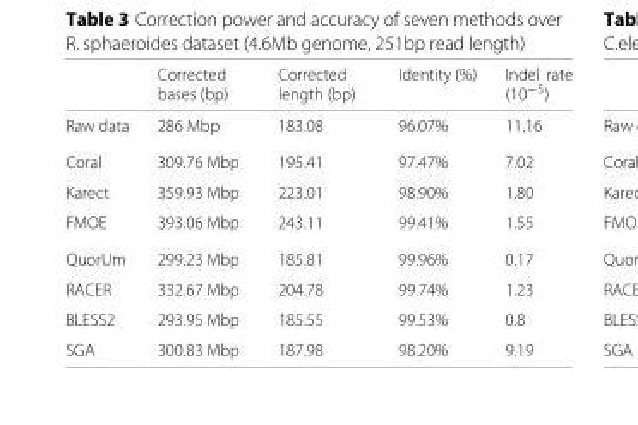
<table><thead><tr><td></td><td>Corrected bases (bp)</td><td>Corrected length (bp)</td><td>Identity (%)</td><td>Indel rate (10<sup>−5</sup>)</td></tr></thead><tbody><tr><td>Raw data</td><td>286 Mbp</td><td>183.08</td><td>96.07%</td><td>11.16</td></tr><tr><td>Coral</td><td>309.76 Mbp</td><td>195.41</td><td>97.47%</td><td>7.02</td></tr><tr><td>Karect</td><td>359.93 Mbp</td><td>223.01</td><td>98.90%</td><td>1.80</td></tr><tr><td>FMOE</td><td>393.06 Mbp</td><td>243.11</td><td>99.41%</td><td>1.55</td></tr><tr><td>QuorUm</td><td>299.23 Mbp</td><td>185.81</td><td>99.96%</td><td>0.17</td></tr><tr><td>RACER</td><td>332.67 Mbp</td><td>204.78</td><td>99.74%</td><td>1.23</td></tr><tr><td>BLESS2</td><td>293.95 Mbp</td><td>185.55</td><td>99.53%</td><td>0.8</td></tr><tr><td>SGA</td><td>300.83 Mbp</td><td>187.98</td><td>98.20%</td><td>9.19</td></tr></tbody></table>